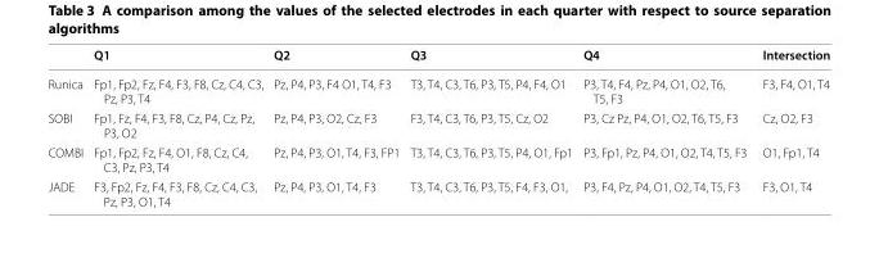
<table><thead><tr><td></td><td>Q1</td><td>Q2</td><td>Q3</td><td>Q4</td><td>Intersection</td></tr></thead><tbody><tr><td>Runica</td><td>Fp1, Fp2, Fz, F4, F3, F8, Cz, C4, C3, Pz, P3, T4</td><td>Pz, P4, P3, F4 O1, T4, F3</td><td>T3, T4, C3, T6, P3, T5, P4, F4, O1</td><td>P3, T4, F4, Pz, P4, O1, O2, T6, T5, F3</td><td>F3, F4, O1, T4</td></tr><tr><td>SOBI</td><td>Fp1, Fz, F4, F3, F8, Cz, P4, Cz, Pz, P3, O2</td><td>Pz, P4, P3, O2, Cz, F3</td><td>F3, T4, C3, T6, P3, T5, Cz, O2</td><td>P3, Cz Pz, P4, O1, O2, T6, T5, F3</td><td>Cz, O2, F3</td></tr><tr><td>COMBI</td><td>Fp1, Fp2, Fz, F4, O1, F8, Cz, C4, C3, Pz, P3, T4</td><td>Pz, P4, P3, O1, T4, F3, FP1</td><td>T3, T4, C3, T6, P3, T5, P4, O1, Fp1</td><td>P3, Fp1, Pz, P4, O1, O2, T4, T5, F3</td><td>O1, Fp1, T4</td></tr><tr><td>JADE</td><td>F3, Fp2, Fz, F4, F3, F8, Cz, C4, C3, Pz, P3, O1, T4</td><td>Pz, P4, P3, O1, T4, F3</td><td>T3, T4, C3, T6, P3, T5, F4, F3, O1,</td><td>P3, F4, Pz, P4, O1, O2, T4, T5, F3</td><td>F3, O1, T4</td></tr></tbody></table>